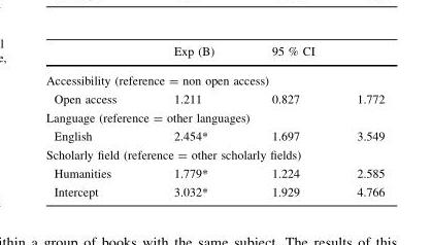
<table><thead><tr><td></td><td>Exp (B)</td><td colspan="2">95 % CI</td></tr><tr><td colspan="4">Accessibility (reference = non open access)</td></tr><tr><td>Open access</td><td>1.211</td><td>0.827</td><td>1.772</td></tr></thead><tbody><tr><td colspan="4">Language (reference = other languages)</td></tr><tr><td>English</td><td>2.454*</td><td>1.697</td><td>3.549</td></tr><tr><td colspan="4">Scholarly field (reference = other scholarly fields)</td></tr><tr><td>Humanities</td><td>1.779*</td><td>1.224</td><td>2.585</td></tr><tr><td>Intercept</td><td>3.032*</td><td>1.929</td><td>4.766</td></tr></tbody></table>